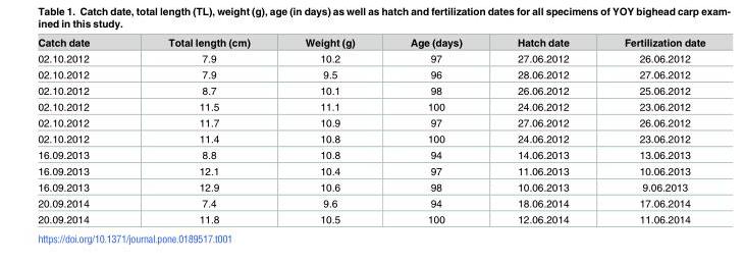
<table><thead><tr><td>Catch date</td><td>Total length (cm)</td><td>Weight (g)</td><td>Age (days)</td><td>Hatch date</td><td>Fertilization date</td></tr></thead><tbody><tr><td>02.10.2012</td><td>7.9</td><td>10.2</td><td>97</td><td>27.06.2012</td><td>26.06.2012</td></tr><tr><td>02.10.2012</td><td>7.9</td><td>9.5</td><td>96</td><td>28.06.2012</td><td>27.06.2012</td></tr><tr><td>02.10.2012</td><td>8.7</td><td>10.1</td><td>98</td><td>26.06.2012</td><td>25.06.2012</td></tr><tr><td>02.10.2012</td><td>11.5</td><td>11.1</td><td>100</td><td>24.06.2012</td><td>23.06.2012</td></tr><tr><td>02.10.2012</td><td>11.7</td><td>10.9</td><td>97</td><td>27.06.2012</td><td>26.06.2012</td></tr><tr><td>02.10.2012</td><td>11.4</td><td>10.8</td><td>100</td><td>24.06.2012</td><td>23.06.2012</td></tr><tr><td>16.09.2013</td><td>8.8</td><td>10.8</td><td>94</td><td>14.06.2013</td><td>13.06.2013</td></tr><tr><td>16.09.2013</td><td>12.1</td><td>10.4</td><td>97</td><td>11.06.2013</td><td>10.06.2013</td></tr><tr><td>16.09.2013</td><td>12.9</td><td>10.6</td><td>98</td><td>10.06.2013</td><td>9.06.2013</td></tr><tr><td>20.09.2014</td><td>7.4</td><td>9.6</td><td>94</td><td>18.06.2014</td><td>17.06.2014</td></tr><tr><td>20.09.2014</td><td>11.8</td><td>10.5</td><td>100</td><td>12.06.2014</td><td>11.06.2014</td></tr></tbody></table>